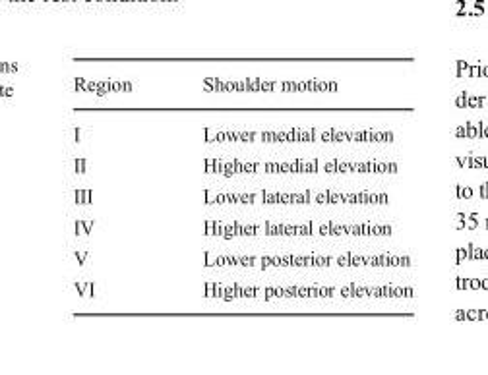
<table><thead><tr><td>Region</td><td>Shoulder motion</td></tr></thead><tbody><tr><td>I</td><td>Lower medial elevation</td></tr><tr><td>II</td><td>Higher medial elevation</td></tr><tr><td>III</td><td>Lower lateral elevation</td></tr><tr><td>IV</td><td>Higher lateral elevation</td></tr><tr><td>V</td><td>Lower posterior elevation</td></tr><tr><td>VI</td><td>Higher posterior elevation</td></tr></tbody></table>